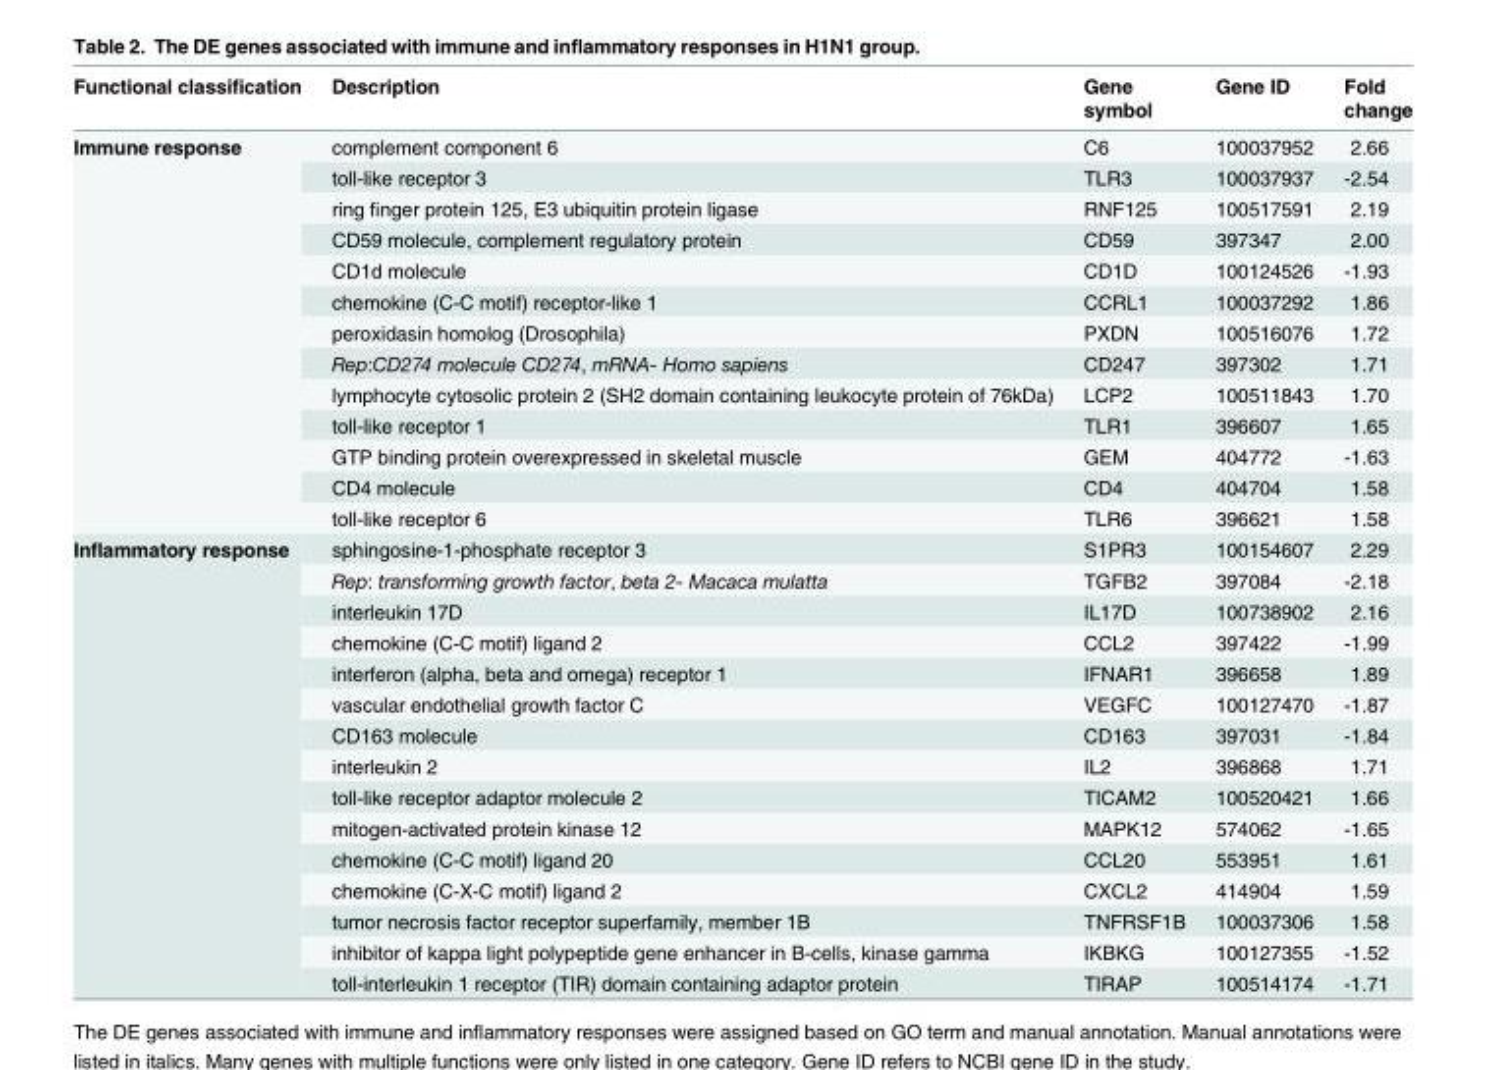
<table><thead><tr><td>Functional classification</td><td>Description</td><td>Gene symbol</td><td>Gene ID</td><td>Fold change</td></tr></thead><tbody><tr><td rowspan="13">Immune response</td><td>complement component 6</td><td>C6</td><td>100037952</td><td>2.66</td></tr><tr><td>toll-like receptor 3</td><td>TLR3</td><td>100037937</td><td>-2.54</td></tr><tr><td>ring finger protein 125, E3 ubiquitin protein ligase</td><td>RNF125</td><td>100517591</td><td>2.19</td></tr><tr><td>CD59 molecule, complement regulatory protein</td><td>CD59</td><td>397347</td><td>2.00</td></tr><tr><td>CD1d molecule</td><td>CD1D</td><td>100124526</td><td>-1.93</td></tr><tr><td>chemokine (C-C motif) receptor-like 1</td><td>CCRL1</td><td>100037292</td><td>1.86</td></tr><tr><td>peroxidasin homolog (Drosophila)</td><td>PXDN</td><td>100516076</td><td>1.72</td></tr><tr><td>Rep:CD274 molecule CD274, mRNA- Homo sapiens</td><td>CD247</td><td>397302</td><td>1.71</td></tr><tr><td>lymphocyte cytosolic protein 2 (SH2 domain containing leukocyte protein of 76kDa)</td><td>LCP2</td><td>100511843</td><td>1.70</td></tr><tr><td>toll-like receptor 1</td><td>TLR1</td><td>396607</td><td>1.65</td></tr><tr><td>GTP binding protein overexpressed in skeletal muscle</td><td>GEM</td><td>404772</td><td>-1.63</td></tr><tr><td>CD4 molecule</td><td>CD4</td><td>404704</td><td>1.58</td></tr><tr><td>toll-like receptor 6</td><td>TLR6</td><td>396621</td><td>1.58</td></tr><tr><td rowspan="15">Inflammatory response</td><td>sphingosine-1-phosphate receptor 3</td><td>S1PR3</td><td>100154607</td><td>2.29</td></tr><tr><td>Rep: transforming growth factor, beta 2- Macaca mulatta</td><td>TGFB2</td><td>397084</td><td>-2.18</td></tr><tr><td>interleukin 17D</td><td>IL17D</td><td>100738902</td><td>2.16</td></tr><tr><td>chemokine (C-C motif) ligand 2</td><td>CCL2</td><td>397422</td><td>-1.99</td></tr><tr><td>interferon (alpha, beta and omega) receptor 1</td><td>IFNAR1</td><td>396658</td><td>1.89</td></tr><tr><td>vascular endothelial growth factor C</td><td>VEGFC</td><td>100127470</td><td>-1.87</td></tr><tr><td>CD163 molecule</td><td>CD163</td><td>397031</td><td>-1.84</td></tr><tr><td>interleukin 2</td><td>IL2</td><td>396868</td><td>1.71</td></tr><tr><td>toll-like receptor adaptor molecule 2</td><td>TICAM2</td><td>100520421</td><td>1.66</td></tr><tr><td>mitogen-activated protein kinase 12</td><td>MAPK12</td><td>574062</td><td>-1.65</td></tr><tr><td>chemokine (C-C motif) ligand 20</td><td>CCL20</td><td>553951</td><td>1.61</td></tr><tr><td>chemokine (C-X-C motif) ligand 2</td><td>CXCL2</td><td>414904</td><td>1.59</td></tr><tr><td>tumor necrosis factor receptor superfamily, member 1B</td><td>TNFRSF1B</td><td>100037306</td><td>1.58</td></tr><tr><td>inhibitor of kappa light polypeptide gene enhancer in B-cells, kinase gamma</td><td>IKBKG</td><td>100127355</td><td>-1.52</td></tr><tr><td>toll-interleukin 1 receptor (TIR) domain containing adaptor protein</td><td>TIRAP</td><td>100514174</td><td>-1.71</td></tr></tbody></table>